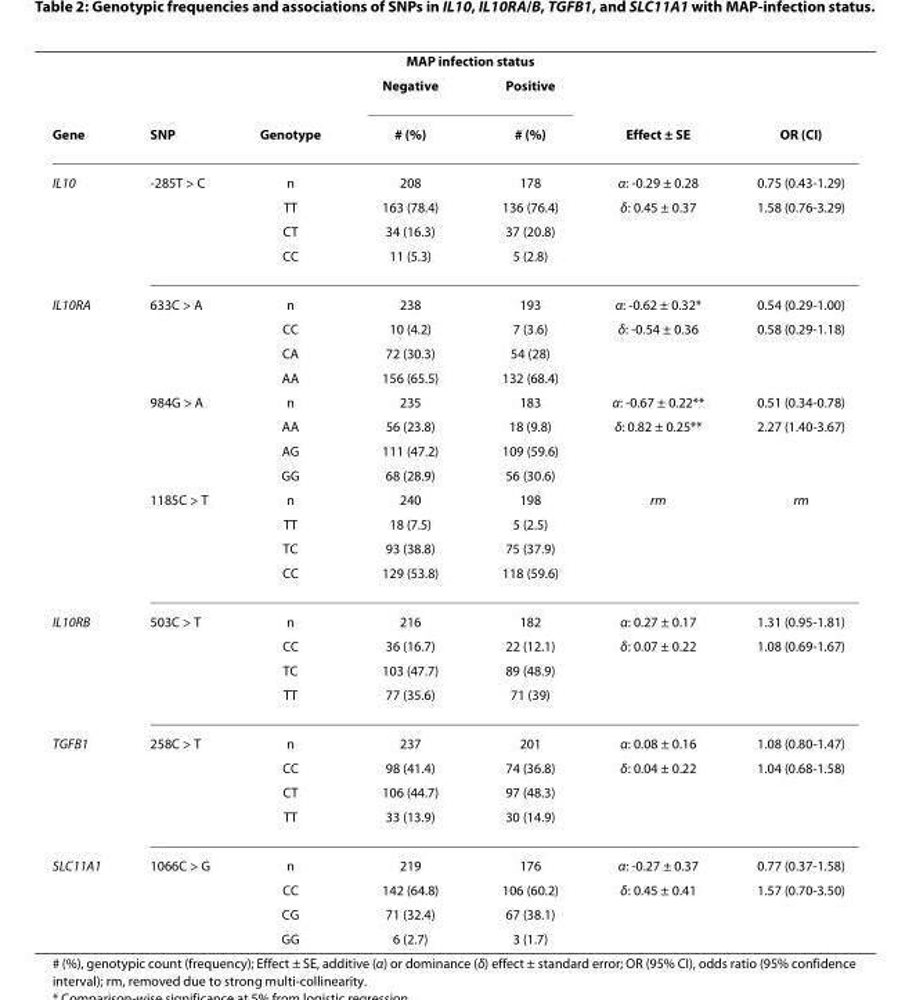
<table><thead><tr><td rowspan="3">Gene</td><td rowspan="3">SNP</td><td rowspan="3">Genotype</td><td colspan="2">MAP infection status</td><td rowspan="3">Effect ± SE</td><td rowspan="3">OR (CI)</td></tr><tr><td rowspan="2">Negative # (%)</td><td rowspan="2">Positive # (%)</td></tr><tr></tr></thead><tbody><tr><td rowspan="4">IL10</td><td>-285T &gt; C</td><td>n</td><td>208</td><td>178</td><td>α: -0.29 ± 0.28</td><td>0.75 (0.43-1.29)</td></tr><tr><td></td><td>TT</td><td>163 (78.4)</td><td>136 (76.4)</td><td>δ: 0.45 ± 0.37</td><td>1.58 (0.76-3.29)</td></tr><tr><td></td><td>CT</td><td>34 (16.3)</td><td>37 (20.8)</td><td></td><td></td></tr><tr><td></td><td>CC</td><td>11 (5.3)</td><td>5 (2.8)</td><td></td><td></td></tr><tr><td rowspan="12">IL10RA</td><td>633C &gt; A</td><td>n</td><td>238</td><td>193</td><td>α: -0.62 ± 0.32*</td><td>0.54 (0.29-1.00)</td></tr><tr><td></td><td>CC</td><td>10 (4.2)</td><td>7 (3.6)</td><td>δ: -0.54 ± 0.36</td><td>0.58 (0.29-1.18)</td></tr><tr><td></td><td>CA</td><td>72 (30.3)</td><td>54 (28)</td><td></td><td></td></tr><tr><td></td><td>AA</td><td>156 (65.5)</td><td>132 (68.4)</td><td></td><td></td></tr><tr><td>984G &gt; A</td><td>n</td><td>235</td><td>183</td><td>α: -0.67 ± 0.22**</td><td>0.51 (0.34-0.78)</td></tr><tr><td></td><td>AA</td><td>56 (23.8)</td><td>18 (9.8)</td><td>δ: 0.82 ± 0.25**</td><td>2.27 (1.40-3.67)</td></tr><tr><td></td><td>AG</td><td>111 (47.2)</td><td>109 (59.6)</td><td></td><td></td></tr><tr><td></td><td>GG</td><td>68 (28.9)</td><td>56 (30.6)</td><td></td><td></td></tr><tr><td>1185C &gt; T</td><td>n</td><td>240</td><td>198</td><td>rm</td><td>rm</td></tr><tr><td></td><td>TT</td><td>18 (7.5)</td><td>5 (2.5)</td><td></td><td></td></tr><tr><td></td><td>TC</td><td>93 (38.8)</td><td>75 (37.9)</td><td></td><td></td></tr><tr><td></td><td>CC</td><td>129 (53.8)</td><td>118 (59.6)</td><td></td><td></td></tr><tr><td rowspan="4">IL10RB</td><td>503C &gt; T</td><td>n</td><td>216</td><td>182</td><td>α: 0.27 ± 0.17</td><td>1.31 (0.95-1.81)</td></tr><tr><td></td><td>CC</td><td>36 (16.7)</td><td>22 (12.1)</td><td>δ: 0.07 ± 0.22</td><td>1.08 (0.69-1.67)</td></tr><tr><td></td><td>TC</td><td>103 (47.7)</td><td>89 (48.9)</td><td></td><td></td></tr><tr><td></td><td>TT</td><td>77 (35.6)</td><td>71 (39)</td><td></td><td></td></tr><tr><td rowspan="4">TGFB1</td><td>258C &gt; T</td><td>n</td><td>237</td><td>201</td><td>α: 0.08 ± 0.16</td><td>1.08 (0.80-1.47)</td></tr><tr><td></td><td>CC</td><td>98 (41.4)</td><td>74 (36.8)</td><td>δ: 0.04 ± 0.22</td><td>1.04 (0.68-1.58)</td></tr><tr><td></td><td>CT</td><td>106 (44.7)</td><td>97 (48.3)</td><td></td><td></td></tr><tr><td></td><td>TT</td><td>33 (13.9)</td><td>30 (14.9)</td><td></td><td></td></tr><tr><td rowspan="4">SLC11A1</td><td>1066C &gt; G</td><td>n</td><td>219</td><td>176</td><td>α: -0.27 ± 0.37</td><td>0.77 (0.37-1.58)</td></tr><tr><td></td><td>CC</td><td>142 (64.8)</td><td>106 (60.2)</td><td>δ: 0.45 ± 0.41</td><td>1.57 (0.70-3.50)</td></tr><tr><td></td><td>CG</td><td>71 (32.4)</td><td>67 (38.1)</td><td></td><td></td></tr><tr><td></td><td>GG</td><td>6 (2.7)</td><td>3 (1.7)</td><td></td><td></td></tr></tbody></table>